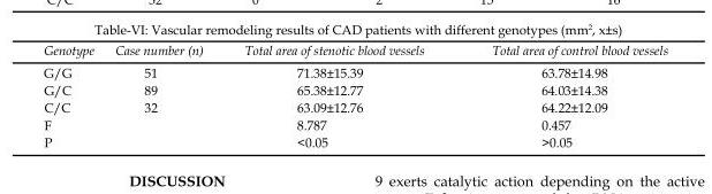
<table><thead><tr><td>Genotype</td><td>Case number (n)</td><td>Total area of stenotic blood vessels</td><td>Total area of control blood vessels</td></tr></thead><tbody><tr><td>G/G</td><td>51</td><td>71.38±15.39</td><td>63.78±14.98</td></tr><tr><td>G/C</td><td>89</td><td>65.38±12.77</td><td>64.03±14.38</td></tr><tr><td>C/C</td><td>32</td><td>63.09±12.76</td><td>64.22±12.09</td></tr><tr><td>F</td><td></td><td>8.787</td><td>0.457</td></tr><tr><td>P</td><td></td><td>&lt;0.05</td><td>&gt;0.05</td></tr></tbody></table>